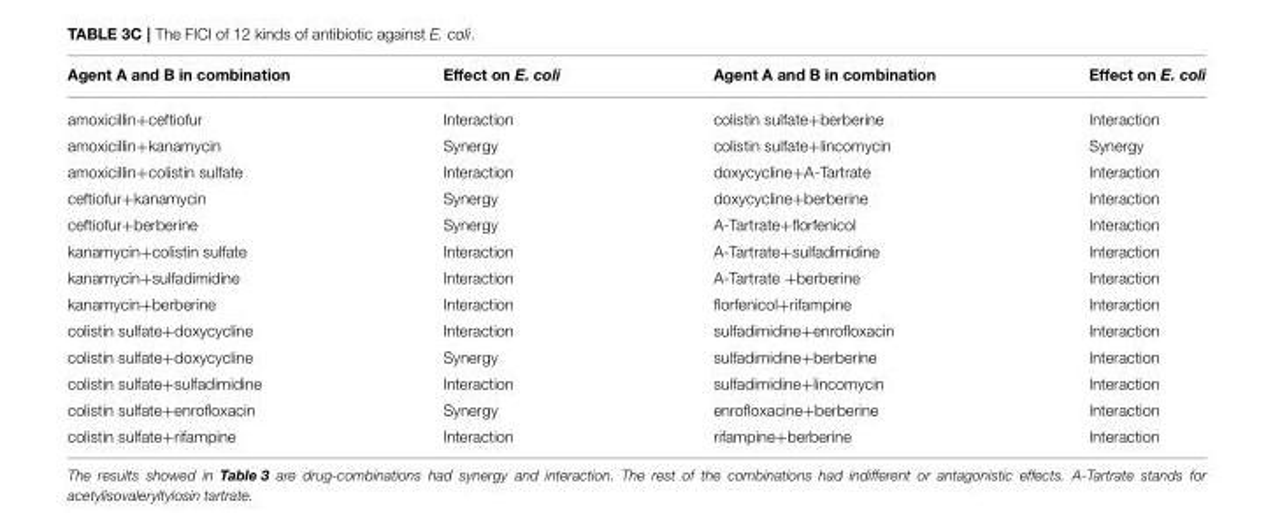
<table><thead><tr><td>Agent A and B in combination</td><td>Effect on E. coli</td><td>Agent A and B in combination</td><td>Effect on E. coli</td></tr></thead><tbody><tr><td>amoxicillin+ceftiofur</td><td>Interaction</td><td>colistin sulfate+berberine</td><td>Interaction</td></tr><tr><td>amoxicillin+kanamycin</td><td>Synergy</td><td>colistin sulfate+lincomycin</td><td>Synergy</td></tr><tr><td>amoxicillin+colistin sulfate</td><td>Interaction</td><td>doxycycline+A-Tartrate</td><td>Interaction</td></tr><tr><td>ceftiofur+kanamycin</td><td>Synergy</td><td>doxycycline+berberine</td><td>Interaction</td></tr><tr><td>ceftiofur+berberine</td><td>Synergy</td><td>A-Tartrate+florfenicol</td><td>Interaction</td></tr><tr><td>kanamycin+colistin sulfate</td><td>Interaction</td><td>A-Tartrate+sulfadimidine</td><td>Interaction</td></tr><tr><td>kanamycin+sulfadimidine</td><td>Interaction</td><td>A-Tartrate +berberine</td><td>Interaction</td></tr><tr><td>kanamycin+berberine</td><td>Interaction</td><td>florfenicol+rifampine</td><td>Interaction</td></tr><tr><td>colistin sulfate+doxycycline</td><td>Interaction</td><td>sulfadimidine+enrofloxacin</td><td>Interaction</td></tr><tr><td>colistin sulfate+doxycycline</td><td>Synergy</td><td>sulfadimidine+berberine</td><td>Interaction</td></tr><tr><td>colistin sulfate+sulfadimidine</td><td>Interaction</td><td>sulfadimidine+lincomycin</td><td>Interaction</td></tr><tr><td>colistin sulfate+enrofloxacin</td><td>Synergy</td><td>enrofloxacine+berberine</td><td>Interaction</td></tr><tr><td>colistin sulfate+rifampine</td><td>Interaction</td><td>rifampine+berberine</td><td>Interaction</td></tr></tbody></table>